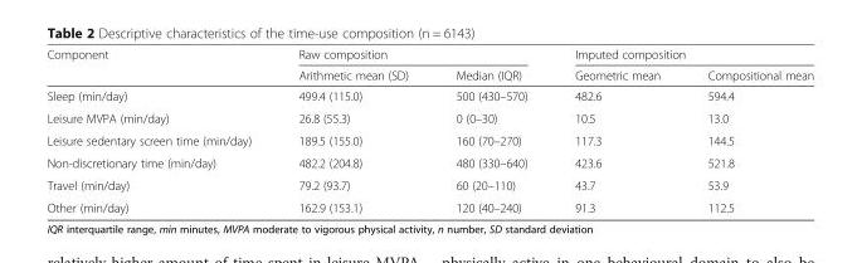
<table><thead><tr><td rowspan="2">Component</td><td colspan="2">Raw composition</td><td colspan="2">Imputed composition</td></tr><tr><td>Arithmetic mean (SD)</td><td>Median (IQR)</td><td>Geometric mean</td><td>Compositional mean</td></tr></thead><tbody><tr><td>Sleep (min/day)</td><td>499.4 (115.0)</td><td>500 (430–570)</td><td>482.6</td><td>594.4</td></tr><tr><td>Leisure MVPA (min/day)</td><td>26.8 (55.3)</td><td>0 (0–30)</td><td>10.5</td><td>13.0</td></tr><tr><td>Leisure sedentary screen time (min/day)</td><td>189.5 (155.0)</td><td>160 (70–270)</td><td>117.3</td><td>144.5</td></tr><tr><td>Non-discretionary time (min/day)</td><td>482.2 (204.8)</td><td>480 (330–640)</td><td>423.6</td><td>521.8</td></tr><tr><td>Travel (min/day)</td><td>79.2 (93.7)</td><td>60 (20–110)</td><td>43.7</td><td>53.9</td></tr><tr><td>Other (min/day)</td><td>162.9 (153.1)</td><td>120 (40–240)</td><td>91.3</td><td>112.5</td></tr></tbody></table>